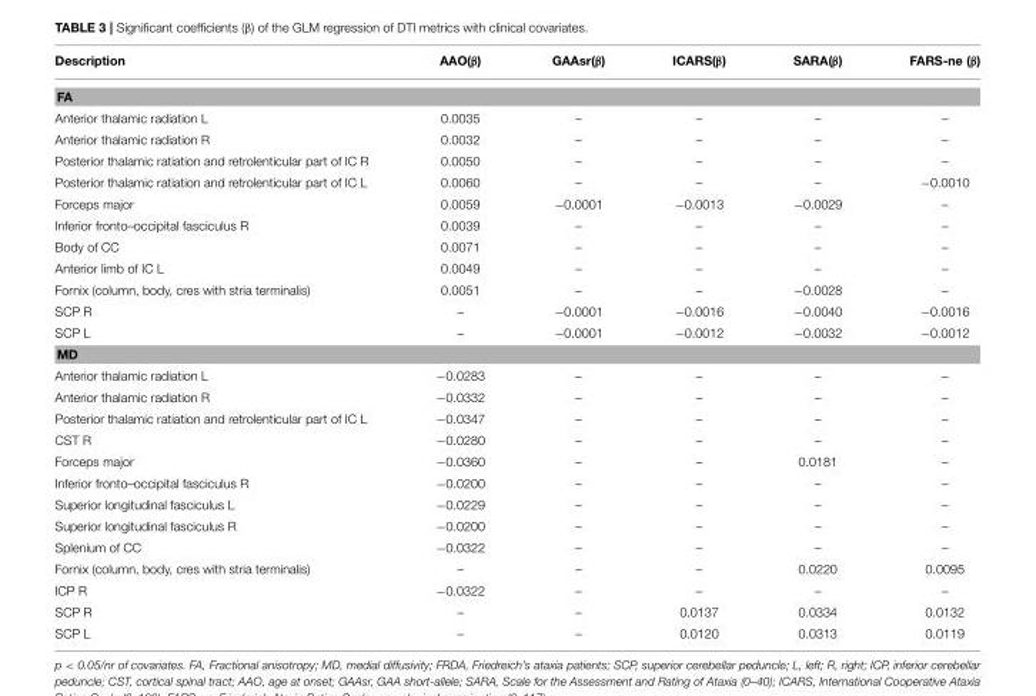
<table><thead><tr><td>Description</td><td>AAO(β)</td><td>GAAsr(β)</td><td>ICARS(β)</td><td>SARA(β)</td><td>FARS-ne (β)</td></tr></thead><tbody><tr><td colspan="6">FA</td></tr><tr><td>Anterior thalamic radiation L</td><td>0.0035</td><td>–</td><td>–</td><td>–</td><td>–</td></tr><tr><td>Anterior thalamic radiation R</td><td>0.0032</td><td>–</td><td>–</td><td>–</td><td>–</td></tr><tr><td>Posterior thalamic ratiation and retrolenticular part of IC R</td><td>0.0050</td><td>–</td><td>–</td><td>–</td><td>–</td></tr><tr><td>Posterior thalamic ratiation and retrolenticular part of IC L</td><td>0.0060</td><td>–</td><td>–</td><td>–</td><td>−0.0010</td></tr><tr><td>Forceps major</td><td>0.0059</td><td>−0.0001</td><td>−0.0013</td><td>−0.0029</td><td>–</td></tr><tr><td>Inferior fronto–occipital fasciculus R</td><td>0.0039</td><td>–</td><td>–</td><td>–</td><td>–</td></tr><tr><td>Body of CC</td><td>0.0071</td><td>–</td><td>–</td><td>–</td><td>–</td></tr><tr><td>Anterior limb of IC L</td><td>0.0049</td><td>–</td><td>–</td><td>–</td><td>–</td></tr><tr><td>Fornix (column, body, cres with stria terminalis)</td><td>0.0051</td><td>–</td><td>–</td><td>−0.0028</td><td>–</td></tr><tr><td>SCP R</td><td>–</td><td>−0.0001</td><td>−0.0016</td><td>−0.0040</td><td>−0.0016</td></tr><tr><td>SCP L</td><td>–</td><td>−0.0001</td><td>−0.0012</td><td>−0.0032</td><td>−0.0012</td></tr><tr><td colspan="6">MD</td></tr><tr><td>Anterior thalamic radiation L</td><td>−0.0283</td><td>–</td><td>–</td><td>–</td><td>–</td></tr><tr><td>Anterior thalamic radiation R</td><td>−0.0332</td><td>–</td><td>–</td><td>–</td><td>–</td></tr><tr><td>Posterior thalamic ratiation and retrolenticular part of IC L</td><td>−0.0347</td><td>–</td><td>–</td><td>–</td><td>–</td></tr><tr><td>CST R</td><td>−0.0280</td><td>–</td><td>–</td><td>–</td><td>–</td></tr><tr><td>Forceps major</td><td>−0.0360</td><td>–</td><td>–</td><td>0.0181</td><td>–</td></tr><tr><td>Inferior fronto–occipital fasciculus R</td><td>−0.0200</td><td>–</td><td>–</td><td>–</td><td>–</td></tr><tr><td>Superior longitudinal fasciculus L</td><td>−0.0229</td><td>–</td><td>–</td><td>–</td><td>–</td></tr><tr><td>Superior longitudinal fasciculus R</td><td>−0.0200</td><td>–</td><td>–</td><td>–</td><td>–</td></tr><tr><td>Splenium of CC</td><td>−0.0322</td><td>–</td><td>–</td><td>–</td><td>–</td></tr><tr><td>Fornix (column, body, cres with stria terminalis)</td><td>–</td><td>–</td><td>–</td><td>0.0220</td><td>0.0095</td></tr><tr><td>ICP R</td><td>−0.0322</td><td>–</td><td>–</td><td>–</td><td>–</td></tr><tr><td>SCP R</td><td>–</td><td>–</td><td>0.0137</td><td>0.0334</td><td>0.0132</td></tr><tr><td>SCP L</td><td>–</td><td>–</td><td>0.0120</td><td>0.0313</td><td>0.0119</td></tr></tbody></table>